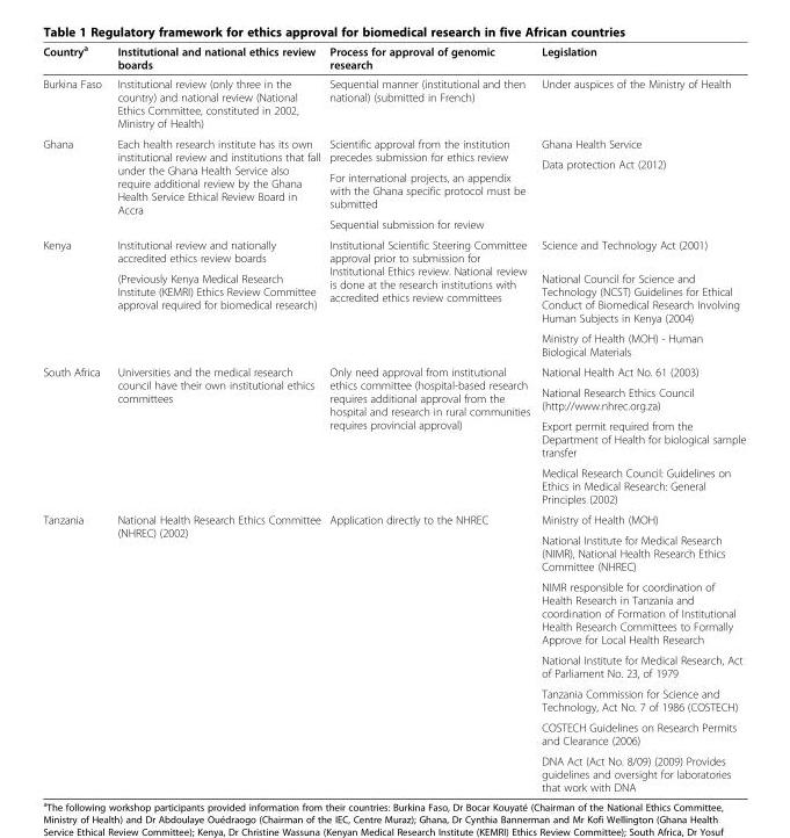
<table><thead><tr><td>Country<sup>a</sup></td><td>Institutional and national ethics review boards</td><td>Process for approval of genomic research</td><td>Legislation</td></tr></thead><tbody><tr><td>Burkina Faso</td><td>Institutional review (only three in the country) and national review (National Ethics Committee, constituted in 2002, Ministry of Health)</td><td>Sequential manner (institutional and then national) (submitted in French)</td><td>Under auspices of the Ministry of Health</td></tr><tr><td rowspan="4">Ghana</td><td rowspan="4">Each health research institute has its own institutional review and institutions that fall under the Ghana Health Service also require additional review by the Ghana Health Service Ethical Review Board in Accra</td><td rowspan="2">Scientific approval from the institution precedes submission for ethics review</td><td>Ghana Health Service</td></tr><tr><td rowspan="3">Data protection Act (2012)</td></tr><tr><td>For international projects, an appendix with the Ghana specific protocol must be submitted</td></tr><tr><td>Sequential submission for review</td></tr><tr><td rowspan="3">Kenya</td><td>Institutional review and nationally accredited ethics review boards</td><td rowspan="3">Institutional Scientific Steering Committee approval prior to submission for Institutional Ethics review. National review is done at the research institutions with accredited ethics review committees</td><td>Science and Technology Act (2001)</td></tr><tr><td rowspan="2">(Previously Kenya Medical Research Institute (KEMRI) Ethics Review Committee approval required for biomedical research)</td><td>National Council for Science and Technology (NCST) Guidelines for Ethical Conduct of Biomedical Research Involving Human Subjects in Kenya (2004)</td></tr><tr><td>Ministry of Health (MOH) - Human Biological Materials</td></tr><tr><td rowspan="4">South Africa</td><td rowspan="4">Universities and the medical research council have their own institutional ethics committees</td><td rowspan="4">Only need approval from institutional ethics committee (hospital-based research requires additional approval from the hospital and research in rural communities requires provincial approval)</td><td>National Health Act No. 61 (2003)</td></tr><tr><td>National Research Ethics Council (http://www.nhrec.org.za)</td></tr><tr><td>Export permit required from the Department of Health for biological sample transfer</td></tr><tr><td>Medical Research Council: Guidelines on Ethics in Medical Research: General Principles (2002)</td></tr><tr><td rowspan="7">Tanzania</td><td rowspan="7">National Health Research Ethics Committee (NHREC) (2002)</td><td rowspan="7">Application directly to the NHREC</td><td>Ministry of Health (MOH)</td></tr><tr><td>National Institute for Medical Research (NIMR), National Health Research Ethics Committee (NHREC)</td></tr><tr><td>NIMR responsible for coordination of Health Research in Tanzania and coordination of Formation of Institutional Health Research Committees to Formally Approve for Local Health Research</td></tr><tr><td>National Institute for Medical Research, Act of Parliament No. 23, of 1979</td></tr><tr><td>Tanzania Commission for Science and Technology, Act No. 7 of 1986 (COSTECH)</td></tr><tr><td>COSTECH Guidelines on Research Permits and Clearance (2006)</td></tr><tr><td>DNA Act (Act No. 8/09) (2009) Provides guidelines and oversight for laboratories that work with DNA</td></tr></tbody></table>